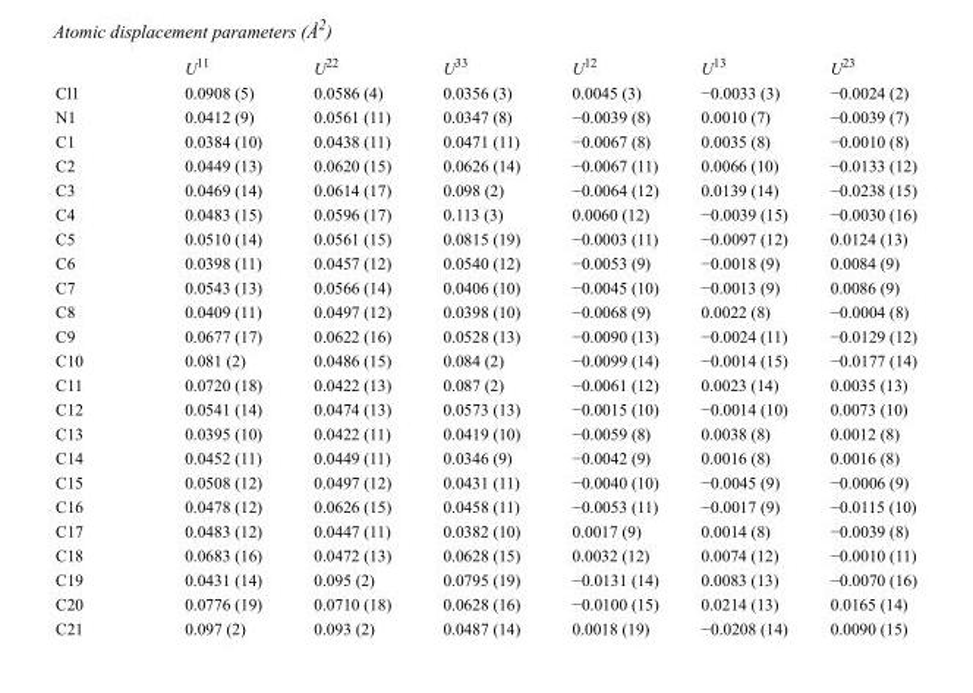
<table><thead><tr><td></td><td>U<sup>11</sup></td><td>U<sup>22</sup></td><td>U<sup>33</sup></td><td>U<sup>12</sup></td><td>U<sup>13</sup></td><td>U<sup>23</sup></td></tr></thead><tbody><tr><td>Cl1</td><td>0.0908 (5)</td><td>0.0586 (4)</td><td>0.0356 (3)</td><td>0.0045 (3)</td><td>−0.0033 (3)</td><td>−0.0024 (2)</td></tr><tr><td>N1</td><td>0.0412 (9)</td><td>0.0561 (11)</td><td>0.0347 (8)</td><td>−0.0039 (8)</td><td>0.0010 (7)</td><td>−0.0039 (7)</td></tr><tr><td>C1</td><td>0.0384 (10)</td><td>0.0438 (11)</td><td>0.0471 (11)</td><td>−0.0067 (8)</td><td>0.0035 (8)</td><td>−0.0010 (8)</td></tr><tr><td>C2</td><td>0.0449 (13)</td><td>0.0620 (15)</td><td>0.0626 (14)</td><td>−0.0067 (11)</td><td>0.0066 (10)</td><td>−0.0133 (12)</td></tr><tr><td>C3</td><td>0.0469 (14)</td><td>0.0614 (17)</td><td>0.098 (2)</td><td>−0.0064 (12)</td><td>0.0139 (14)</td><td>−0.0238 (15)</td></tr><tr><td>C4</td><td>0.0483 (15)</td><td>0.0596 (17)</td><td>0.113 (3)</td><td>0.0060 (12)</td><td>−0.0039 (15)</td><td>−0.0030 (16)</td></tr><tr><td>C5</td><td>0.0510 (14)</td><td>0.0561 (15)</td><td>0.0815 (19)</td><td>−0.0003 (11)</td><td>−0.0097 (12)</td><td>0.0124 (13)</td></tr><tr><td>C6</td><td>0.0398 (11)</td><td>0.0457 (12)</td><td>0.0540 (12)</td><td>−0.0053 (9)</td><td>−0.0018 (9)</td><td>0.0084 (9)</td></tr><tr><td>C7</td><td>0.0543 (13)</td><td>0.0566 (14)</td><td>0.0406 (10)</td><td>−0.0045 (10)</td><td>−0.0013 (9)</td><td>0.0086 (9)</td></tr><tr><td>C8</td><td>0.0409 (11)</td><td>0.0497 (12)</td><td>0.0398 (10)</td><td>−0.0068 (9)</td><td>0.0022 (8)</td><td>−0.0004 (8)</td></tr><tr><td>C9</td><td>0.0677 (17)</td><td>0.0622 (16)</td><td>0.0528 (13)</td><td>−0.0090 (13)</td><td>−0.0024 (11)</td><td>−0.0129 (12)</td></tr><tr><td>C10</td><td>0.081 (2)</td><td>0.0486 (15)</td><td>0.084 (2)</td><td>−0.0099 (14)</td><td>−0.0014 (15)</td><td>−0.0177 (14)</td></tr><tr><td>C11</td><td>0.0720 (18)</td><td>0.0422 (13)</td><td>0.087 (2)</td><td>−0.0061 (12)</td><td>0.0023 (14)</td><td>0.0035 (13)</td></tr><tr><td>C12</td><td>0.0541 (14)</td><td>0.0474 (13)</td><td>0.0573 (13)</td><td>−0.0015 (10)</td><td>−0.0014 (10)</td><td>0.0073 (10)</td></tr><tr><td>C13</td><td>0.0395 (10)</td><td>0.0422 (11)</td><td>0.0419 (10)</td><td>−0.0059 (8)</td><td>0.0038 (8)</td><td>0.0012 (8)</td></tr><tr><td>C14</td><td>0.0452 (11)</td><td>0.0449 (11)</td><td>0.0346 (9)</td><td>−0.0042 (9)</td><td>0.0016 (8)</td><td>0.0016 (8)</td></tr><tr><td>C15</td><td>0.0508 (12)</td><td>0.0497 (12)</td><td>0.0431 (11)</td><td>−0.0040 (10)</td><td>−0.0045 (9)</td><td>−0.0006 (9)</td></tr><tr><td>C16</td><td>0.0478 (12)</td><td>0.0626 (15)</td><td>0.0458 (11)</td><td>−0.0053 (11)</td><td>−0.0017 (9)</td><td>−0.0115 (10)</td></tr><tr><td>C17</td><td>0.0483 (12)</td><td>0.0447 (11)</td><td>0.0382 (10)</td><td>0.0017 (9)</td><td>0.0014 (8)</td><td>−0.0039 (8)</td></tr><tr><td>C18</td><td>0.0683 (16)</td><td>0.0472 (13)</td><td>0.0628 (15)</td><td>0.0032 (12)</td><td>0.0074 (12)</td><td>−0.0010 (11)</td></tr><tr><td>C19</td><td>0.0431 (14)</td><td>0.095 (2)</td><td>0.0795 (19)</td><td>−0.0131 (14)</td><td>0.0083 (13)</td><td>−0.0070 (16)</td></tr><tr><td>C20</td><td>0.0776 (19)</td><td>0.0710 (18)</td><td>0.0628 (16)</td><td>−0.0100 (15)</td><td>0.0214 (13)</td><td>0.0165 (14)</td></tr><tr><td>C21</td><td>0.097 (2)</td><td>0.093 (2)</td><td>0.0487 (14)</td><td>0.0018 (19)</td><td>−0.0208 (14)</td><td>0.0090 (15)</td></tr></tbody></table>